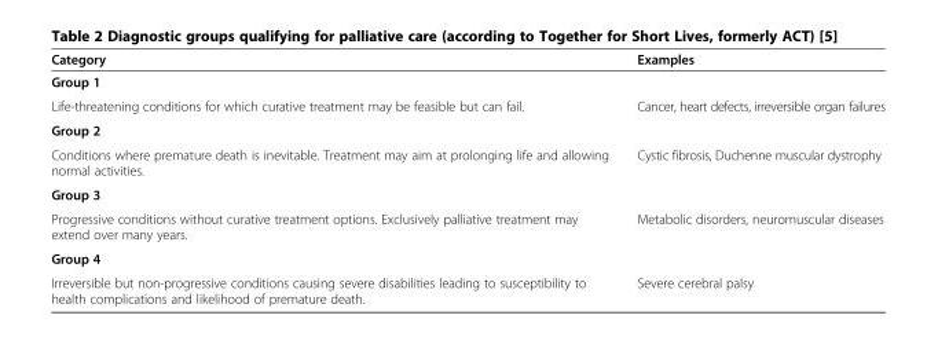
<table><thead><tr><td>Category</td><td>Examples</td></tr></thead><tbody><tr><td colspan="2">Group 1</td></tr><tr><td>Life-threatening conditions for which curative treatment may be feasible but can fail.</td><td>Cancer, heart defects, irreversible organ failures</td></tr><tr><td colspan="2">Group 2</td></tr><tr><td>Conditions where premature death is inevitable. Treatment may aim at prolonging life and allowing normal activities.</td><td>Cystic fibrosis, Duchenne muscular dystrophy</td></tr><tr><td colspan="2">Group 3</td></tr><tr><td>Progressive conditions without curative treatment options. Exclusively palliative treatment may extend over many years.</td><td>Metabolic disorders, neuromuscular diseases</td></tr><tr><td colspan="2">Group 4</td></tr><tr><td>Irreversible but non-progressive conditions causing severe disabilities leading to susceptibility to health complications and likelihood of premature death.</td><td>Severe cerebral palsy</td></tr></tbody></table>